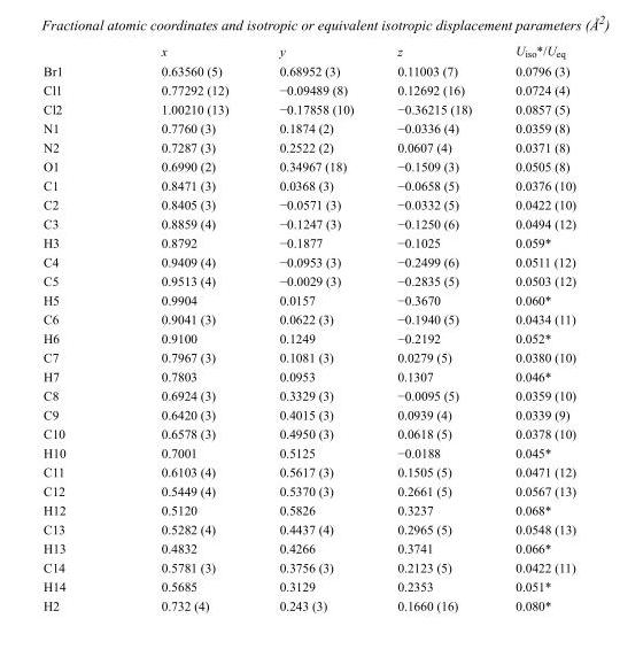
<table><thead><tr><td></td><td>x</td><td>y</td><td>z</td><td>U<sub>iso</sub>*/U<sub>eq</sub></td></tr></thead><tbody><tr><td>Br1</td><td>0.63560 (5)</td><td>0.68952 (3)</td><td>0.11003 (7)</td><td>0.0796 (3)</td></tr><tr><td>Cl1</td><td>0.77292 (12)</td><td>−0.09489 (8)</td><td>0.12692 (16)</td><td>0.0724 (4)</td></tr><tr><td>Cl2</td><td>1.00210 (13)</td><td>−0.17858 (10)</td><td>−0.36215 (18)</td><td>0.0857 (5)</td></tr><tr><td>N1</td><td>0.7760 (3)</td><td>0.1874 (2)</td><td>−0.0336 (4)</td><td>0.0359 (8)</td></tr><tr><td>N2</td><td>0.7287 (3)</td><td>0.2522 (2)</td><td>0.0607 (4)</td><td>0.0371 (8)</td></tr><tr><td>O1</td><td>0.6990 (2)</td><td>0.34967 (18)</td><td>−0.1509 (3)</td><td>0.0505 (8)</td></tr><tr><td>C1</td><td>0.8471 (3)</td><td>0.0368 (3)</td><td>−0.0658 (5)</td><td>0.0376 (10)</td></tr><tr><td>C2</td><td>0.8405 (3)</td><td>−0.0571 (3)</td><td>−0.0332 (5)</td><td>0.0422 (10)</td></tr><tr><td>C3</td><td>0.8859 (4)</td><td>−0.1247 (3)</td><td>−0.1250 (6)</td><td>0.0494 (12)</td></tr><tr><td>H3</td><td>0.8792</td><td>−0.1877</td><td>−0.1025</td><td>0.059*</td></tr><tr><td>C4</td><td>0.9409 (4)</td><td>−0.0953 (3)</td><td>−0.2499 (6)</td><td>0.0511 (12)</td></tr><tr><td>C5</td><td>0.9513 (4)</td><td>−0.0029 (3)</td><td>−0.2835 (5)</td><td>0.0503 (12)</td></tr><tr><td>H5</td><td>0.9904</td><td>0.0157</td><td>−0.3670</td><td>0.060*</td></tr><tr><td>C6</td><td>0.9041 (3)</td><td>0.0622 (3)</td><td>−0.1940 (5)</td><td>0.0434 (11)</td></tr><tr><td>H6</td><td>0.9100</td><td>0.1249</td><td>−0.2192</td><td>0.052*</td></tr><tr><td>C7</td><td>0.7967 (3)</td><td>0.1081 (3)</td><td>0.0279 (5)</td><td>0.0380 (10)</td></tr><tr><td>H7</td><td>0.7803</td><td>0.0953</td><td>0.1307</td><td>0.046*</td></tr><tr><td>C8</td><td>0.6924 (3)</td><td>0.3329 (3)</td><td>−0.0095 (5)</td><td>0.0359 (10)</td></tr><tr><td>C9</td><td>0.6420 (3)</td><td>0.4015 (3)</td><td>0.0939 (4)</td><td>0.0339 (9)</td></tr><tr><td>C10</td><td>0.6578 (3)</td><td>0.4950 (3)</td><td>0.0618 (5)</td><td>0.0378 (10)</td></tr><tr><td>H10</td><td>0.7001</td><td>0.5125</td><td>−0.0188</td><td>0.045*</td></tr><tr><td>C11</td><td>0.6103 (4)</td><td>0.5617 (3)</td><td>0.1505 (5)</td><td>0.0471 (12)</td></tr><tr><td>C12</td><td>0.5449 (4)</td><td>0.5370 (3)</td><td>0.2661 (5)</td><td>0.0567 (13)</td></tr><tr><td>H12</td><td>0.5120</td><td>0.5826</td><td>0.3237</td><td>0.068*</td></tr><tr><td>C13</td><td>0.5282 (4)</td><td>0.4437 (4)</td><td>0.2965 (5)</td><td>0.0548 (13)</td></tr><tr><td>H13</td><td>0.4832</td><td>0.4266</td><td>0.3741</td><td>0.066*</td></tr><tr><td>C14</td><td>0.5781 (3)</td><td>0.3756 (3)</td><td>0.2123 (5)</td><td>0.0422 (11)</td></tr><tr><td>H14</td><td>0.5685</td><td>0.3129</td><td>0.2353</td><td>0.051*</td></tr><tr><td>H2</td><td>0.732 (4)</td><td>0.243 (3)</td><td>0.1660 (16)</td><td>0.080*</td></tr></tbody></table>